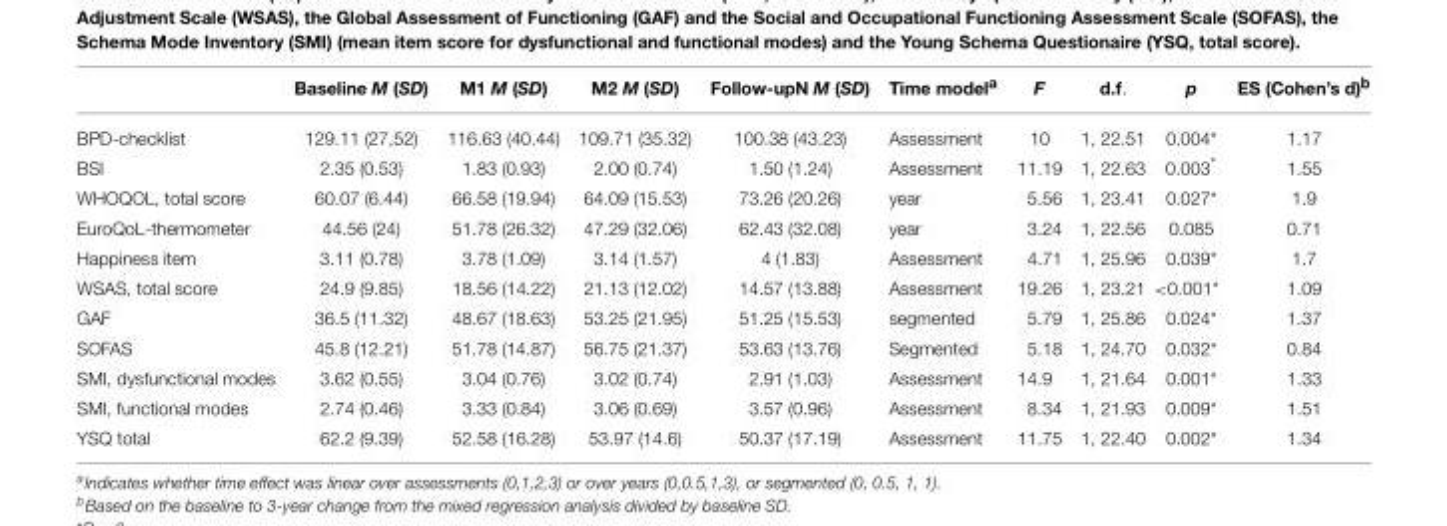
<table><thead><tr><td></td><td>Baseline M (SD)</td><td>M1 M (SD)</td><td>M2 M (SD)</td><td>Follow-upN M (SD)</td><td>Time model<sup>a</sup></td><td>F</td><td>d.f.</td><td>p</td><td>ES (Cohen’s d)<sup>b</sup></td></tr></thead><tbody><tr><td>BPD-checklist</td><td>129.11 (27,52)</td><td>116.63 (40.44)</td><td>109.71 (35.32)</td><td>100.38 (43.23)</td><td>Assessment</td><td>10</td><td>1, 22.51</td><td>0.004*</td><td>1.17</td></tr><tr><td>BSI</td><td>2.35 (0.53)</td><td>1.83 (0.93)</td><td>2.00 (0.74)</td><td>1.50 (1.24)</td><td>Assessment</td><td>11.19</td><td>1, 22.63</td><td>0.003*</td><td>1.55</td></tr><tr><td>WHOQOL, total score</td><td>60.07 (6.44)</td><td>66.58 (19.94)</td><td>64.09 (15.53)</td><td>73.26 (20.26)</td><td>year</td><td>5.56</td><td>1, 23.41</td><td>0.027*</td><td>1.9</td></tr><tr><td>EuroQoL-thermometer</td><td>44.56 (24)</td><td>51.78 (26.32)</td><td>47.29 (32.06)</td><td>62.43 (32.08)</td><td>year</td><td>3.24</td><td>1, 22.56</td><td>0.085</td><td>0.71</td></tr><tr><td>Happiness item</td><td>3.11 (0.78)</td><td>3.78 (1.09)</td><td>3.14 (1.57)</td><td>4 (1.83)</td><td>Assessment</td><td>4.71</td><td>1, 25.96</td><td>0.039*</td><td>1.7</td></tr><tr><td>WSAS, total score</td><td>24.9 (9.85)</td><td>18.56 (14.22)</td><td>21.13 (12.02)</td><td>14.57 (13.88)</td><td>Assessment</td><td>19.26</td><td>1, 23.21</td><td>&lt;0.001*</td><td>1.09</td></tr><tr><td>GAF</td><td>36.5 (11.32)</td><td>48.67 (18.63)</td><td>53.25 (21.95)</td><td>51.25 (15.53)</td><td>segmented</td><td>5.79</td><td>1, 25.86</td><td>0.024*</td><td>1.37</td></tr><tr><td>SOFAS</td><td>45.8 (12.21)</td><td>51.78 (14.87)</td><td>56.75 (21.37)</td><td>53.63 (13.76)</td><td>Segmented</td><td>5.18</td><td>1, 24.70</td><td>0.032*</td><td>0.84</td></tr><tr><td>SMI, dysfunctional modes</td><td>3.62 (0.55)</td><td>3.04 (0.76)</td><td>3.02 (0.74)</td><td>2.91 (1.03)</td><td>Assessment</td><td>14.9</td><td>1, 21.64</td><td>0.001*</td><td>1.33</td></tr><tr><td>SMI, functional modes</td><td>2.74 (0.46)</td><td>3.33 (0.84)</td><td>3.06 (0.69)</td><td>3.57 (0.96)</td><td>Assessment</td><td>8.34</td><td>1, 21.93</td><td>0.009*</td><td>1.51</td></tr><tr><td>YSQ total</td><td>62.2 (9.39)</td><td>52.58 (16.28)</td><td>53.97 (14.6)</td><td>50.37 (17.19)</td><td>Assessment</td><td>11.75</td><td>1, 22.40</td><td>0.002*</td><td>1.34</td></tr></tbody></table>